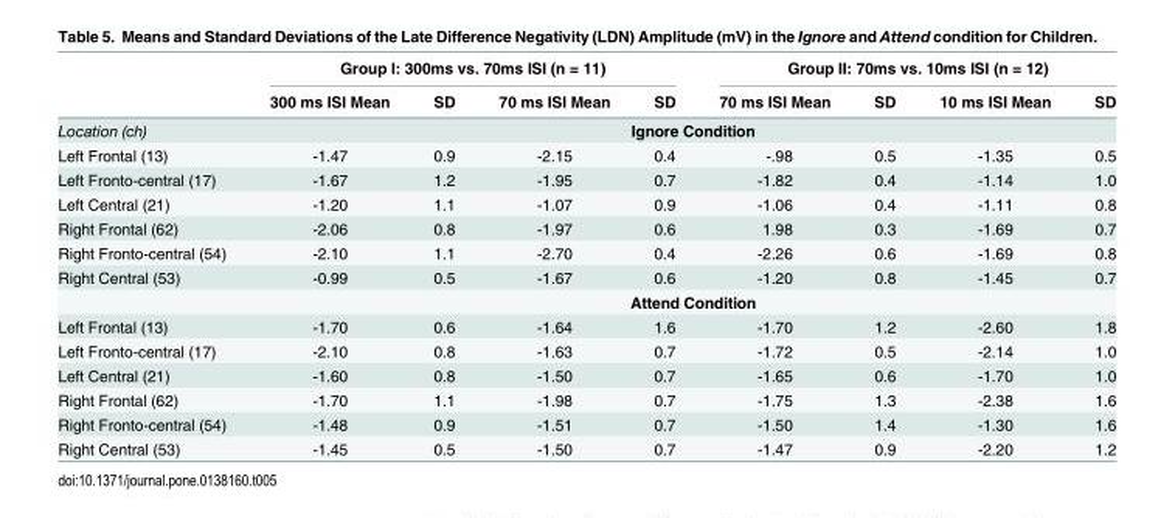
<table><thead><tr><td rowspan="2"></td><td colspan="4">Group I: 300ms vs. 70ms ISI (n = 11)</td><td colspan="4">Group II: 70ms vs. 10ms ISI (n = 12)</td></tr><tr><td>300 ms ISI Mean</td><td>SD</td><td>70 ms ISI Mean</td><td>SD</td><td>70 ms ISI Mean</td><td>SD</td><td>10 ms ISI Mean</td><td>SD</td></tr></thead><tbody><tr><td>Location (ch)</td><td colspan="8">Ignore Condition</td></tr><tr><td>Left Frontal (13)</td><td>-1.47</td><td>0.9</td><td>-2.15</td><td>0.4</td><td>-.98</td><td>0.5</td><td>-1.35</td><td>0.5</td></tr><tr><td>Left Fronto-central (17)</td><td>-1.67</td><td>1.2</td><td>-1.95</td><td>0.7</td><td>-1.82</td><td>0.4</td><td>-1.14</td><td>1.0</td></tr><tr><td>Left Central (21)</td><td>-1.20</td><td>1.1</td><td>-1.07</td><td>0.9</td><td>-1.06</td><td>0.4</td><td>-1.11</td><td>0.8</td></tr><tr><td>Right Frontal (62)</td><td>-2.06</td><td>0.8</td><td>-1.97</td><td>0.6</td><td>1.98</td><td>0.3</td><td>-1.69</td><td>0.7</td></tr><tr><td>Right Fronto-central (54)</td><td>-2.10</td><td>1.1</td><td>-2.70</td><td>0.4</td><td>-2.26</td><td>0.6</td><td>-1.69</td><td>0.8</td></tr><tr><td rowspan="2">Right Central (53)</td><td>-0.99</td><td>0.5</td><td>-1.67</td><td>0.6</td><td>-1.20</td><td>0.8</td><td>-1.45</td><td>0.7</td></tr><tr><td colspan="8">Attend Condition</td></tr><tr><td>Left Frontal (13)</td><td>-1.70</td><td>0.6</td><td>-1.64</td><td>1.6</td><td>-1.70</td><td>1.2</td><td>-2.60</td><td>1.8</td></tr><tr><td>Left Fronto-central (17)</td><td>-2.10</td><td>0.8</td><td>-1.63</td><td>0.7</td><td>-1.72</td><td>0.5</td><td>-2.14</td><td>1.0</td></tr><tr><td>Left Central (21)</td><td>-1.60</td><td>0.8</td><td>-1.50</td><td>0.7</td><td>-1.65</td><td>0.6</td><td>-1.70</td><td>1.0</td></tr><tr><td>Right Frontal (62)</td><td>-1.70</td><td>1.1</td><td>-1.98</td><td>0.7</td><td>-1.75</td><td>1.3</td><td>-2.38</td><td>1.6</td></tr><tr><td>Right Fronto-central (54)</td><td>-1.48</td><td>0.9</td><td>-1.51</td><td>0.7</td><td>-1.50</td><td>1.4</td><td>-1.30</td><td>1.6</td></tr><tr><td>Right Central (53)</td><td>-1.45</td><td>0.5</td><td>-1.50</td><td>0.7</td><td>-1.47</td><td>0.9</td><td>-2.20</td><td>1.2</td></tr></tbody></table>